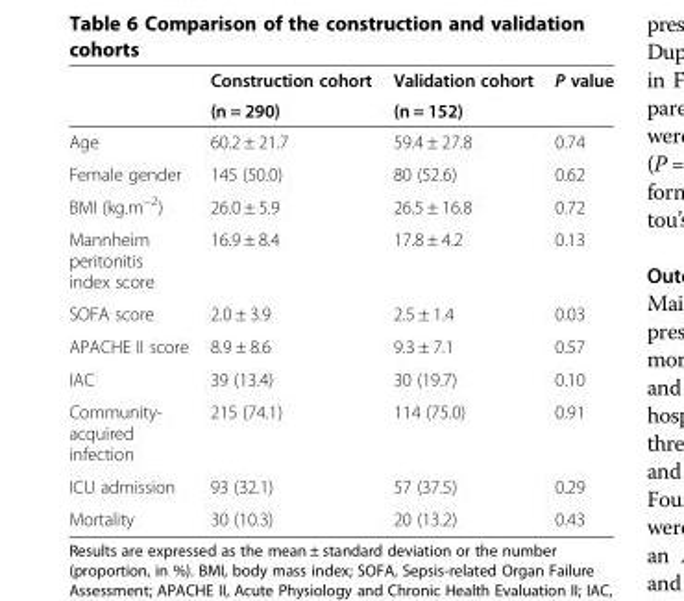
<table><thead><tr><td rowspan="2"></td><td rowspan="2">Construction cohort (n = 290)</td><td rowspan="2">Validation cohort (n = 152)</td><td rowspan="2">P value</td></tr><tr></tr></thead><tbody><tr><td>Age</td><td>60.2 ± 21.7</td><td>59.4 ± 27.8</td><td>0.74</td></tr><tr><td>Female gender</td><td>145 (50.0)</td><td>80 (52.6)</td><td>0.62</td></tr><tr><td>BMI (kg.m<sup>−2</sup>)</td><td>26.0 ± 5.9</td><td>26.5 ± 16.8</td><td>0.72</td></tr><tr><td>Mannheim peritonitis index score</td><td>16.9 ± 8.4</td><td>17.8 ± 4.2</td><td>0.13</td></tr><tr><td>SOFA score</td><td>2.0 ± 3.9</td><td>2.5 ± 1.4</td><td>0.03</td></tr><tr><td>APACHE II score</td><td>8.9 ± 8.6</td><td>9.3 ± 7.1</td><td>0.57</td></tr><tr><td>IAC</td><td>39 (13.4)</td><td>30 (19.7)</td><td>0.10</td></tr><tr><td>Community- acquired infection</td><td>215 (74.1)</td><td>114 (75.0)</td><td>0.91</td></tr><tr><td>ICU admission</td><td>93 (32.1)</td><td>57 (37.5)</td><td>0.29</td></tr><tr><td>Mortality</td><td>30 (10.3)</td><td>20 (13.2)</td><td>0.43</td></tr></tbody></table>